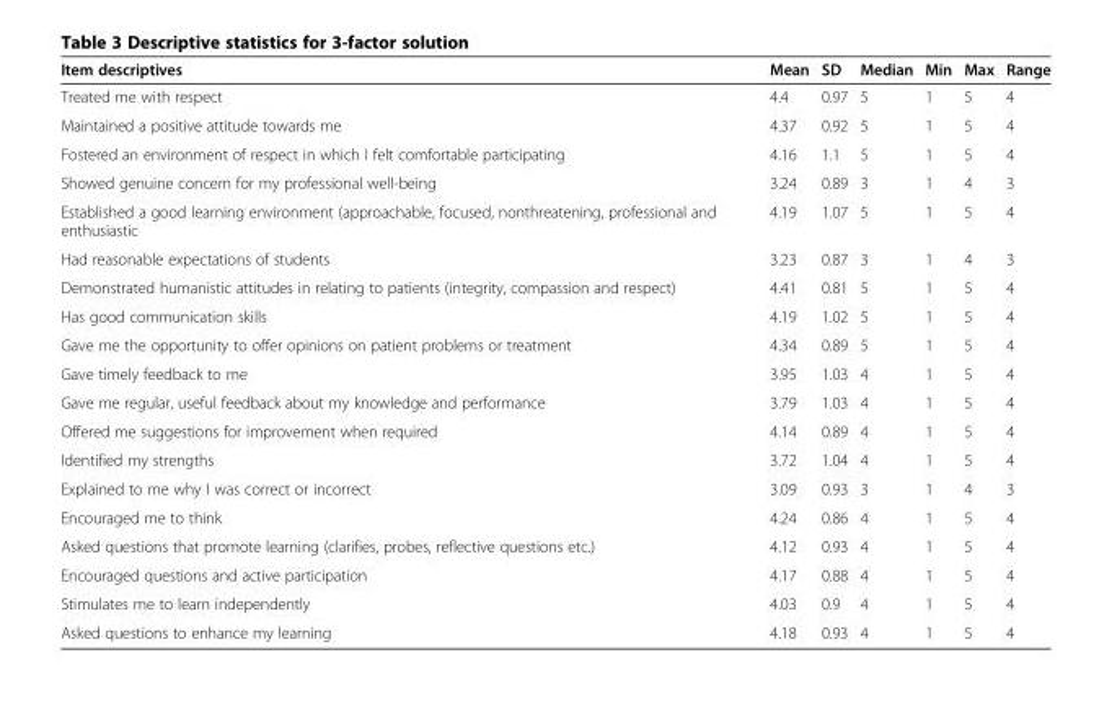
<table><thead><tr><td>Item descriptives</td><td>Mean</td><td>SD</td><td>Median</td><td>Min</td><td>Max</td><td>Range</td></tr></thead><tbody><tr><td>Treated me with respect</td><td>4.4</td><td>0.97</td><td>5</td><td>1</td><td>5</td><td>4</td></tr><tr><td>Maintained a positive attitude towards me</td><td>4.37</td><td>0.92</td><td>5</td><td>1</td><td>5</td><td>4</td></tr><tr><td>Fostered an environment of respect in which I felt comfortable participating</td><td>4.16</td><td>1.1</td><td>5</td><td>1</td><td>5</td><td>4</td></tr><tr><td>Showed genuine concern for my professional well-being</td><td>3.24</td><td>0.89</td><td>3</td><td>1</td><td>4</td><td>3</td></tr><tr><td>Established a good learning environment (approachable, focused, nonthreatening, professional and enthusiastic</td><td>4.19</td><td>1.07</td><td>5</td><td>1</td><td>5</td><td>4</td></tr><tr><td>Had reasonable expectations of students</td><td>3.23</td><td>0.87</td><td>3</td><td>1</td><td>4</td><td>3</td></tr><tr><td>Demonstrated humanistic attitudes in relating to patients (integrity, compassion and respect)</td><td>4.41</td><td>0.81</td><td>5</td><td>1</td><td>5</td><td>4</td></tr><tr><td>Has good communication skills</td><td>4.19</td><td>1.02</td><td>5</td><td>1</td><td>5</td><td>4</td></tr><tr><td>Gave me the opportunity to offer opinions on patient problems or treatment</td><td>4.34</td><td>0.89</td><td>5</td><td>1</td><td>5</td><td>4</td></tr><tr><td>Gave timely feedback to me</td><td>3.95</td><td>1.03</td><td>4</td><td>1</td><td>5</td><td>4</td></tr><tr><td>Gave me regular, useful feedback about my knowledge and performance</td><td>3.79</td><td>1.03</td><td>4</td><td>1</td><td>5</td><td>4</td></tr><tr><td>Offered me suggestions for improvement when required</td><td>4.14</td><td>0.89</td><td>4</td><td>1</td><td>5</td><td>4</td></tr><tr><td>Identified my strengths</td><td>3.72</td><td>1.04</td><td>4</td><td>1</td><td>5</td><td>4</td></tr><tr><td>Explained to me why I was correct or incorrect</td><td>3.09</td><td>0.93</td><td>3</td><td>1</td><td>4</td><td>3</td></tr><tr><td>Encouraged me to think</td><td>4.24</td><td>0.86</td><td>4</td><td>1</td><td>5</td><td>4</td></tr><tr><td>Asked questions that promote learning (clarifies, probes, reflective questions etc.)</td><td>4.12</td><td>0.93</td><td>4</td><td>1</td><td>5</td><td>4</td></tr><tr><td>Encouraged questions and active participation</td><td>4.17</td><td>0.88</td><td>4</td><td>1</td><td>5</td><td>4</td></tr><tr><td>Stimulates me to learn independently</td><td>4.03</td><td>0.9</td><td>4</td><td>1</td><td>5</td><td>4</td></tr><tr><td>Asked questions to enhance my learning</td><td>4.18</td><td>0.93</td><td>4</td><td>1</td><td>5</td><td>4</td></tr></tbody></table>